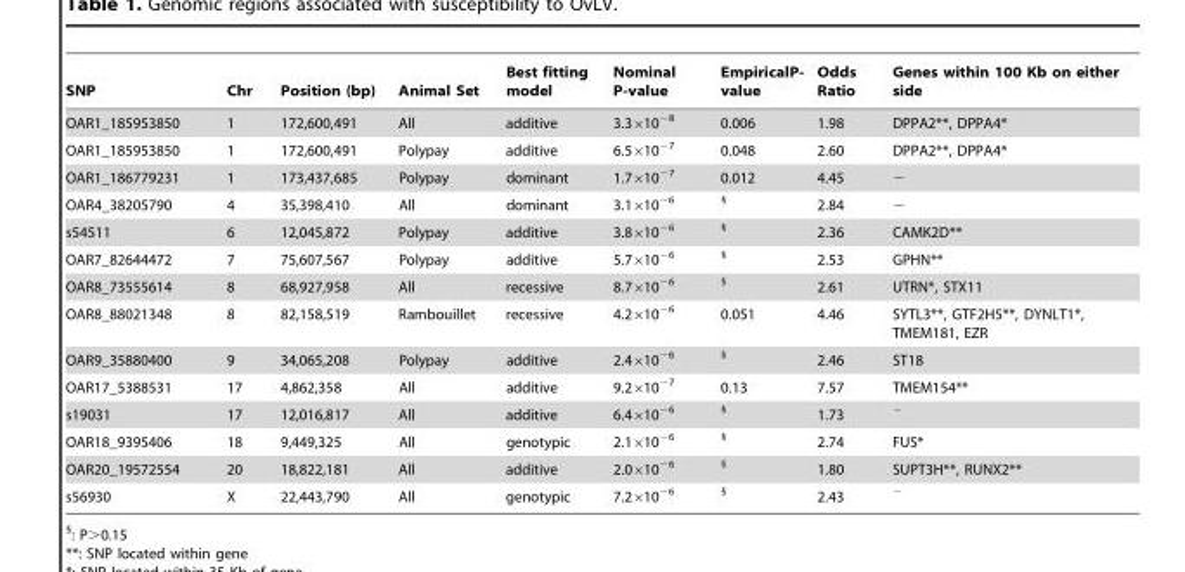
<table><thead><tr><td>SNP</td><td>Chr</td><td>Position (bp)</td><td>Animal Set</td><td>Best fitting model</td><td>Nominal P-value</td><td>EmpiricalP- value</td><td>Odds Ratio</td><td>Genes within 100 Kb on either side</td></tr></thead><tbody><tr><td>OAR1_185953850</td><td>1</td><td>172,600,491</td><td>All</td><td>additive</td><td>3.3×10<sup>−8</sup></td><td>0.006</td><td>1.98</td><td>DPPA2**, DPPA4*</td></tr><tr><td>OAR1_185953850</td><td>1</td><td>172,600,491</td><td>Polypay</td><td>additive</td><td>6.5×10<sup>−7</sup></td><td>0.048</td><td>2.60</td><td>DPPA2**, DPPA4*</td></tr><tr><td>OAR1_186779231</td><td>1</td><td>173,437,685</td><td>Polypay</td><td>dominant</td><td>1.7×10<sup>−7</sup></td><td>0.012</td><td>4.45</td><td>−</td></tr><tr><td>OAR4_38205790</td><td>4</td><td>35,398,410</td><td>All</td><td>dominant</td><td>3.1×10<sup>−6</sup></td><td>§</td><td>2.84</td><td>−</td></tr><tr><td>s54511</td><td>6</td><td>12,045,872</td><td>Polypay</td><td>additive</td><td>3.8×10<sup>−6</sup></td><td>§</td><td>2.36</td><td>CAMK2D**</td></tr><tr><td>OAR7_82644472</td><td>7</td><td>75,607,567</td><td>Polypay</td><td>additive</td><td>5.7×10<sup>−6</sup></td><td>§</td><td>2.53</td><td>GPHN**</td></tr><tr><td>OAR8_73555614</td><td>8</td><td>68,927,958</td><td>All</td><td>recessive</td><td>8.7×10<sup>−6</sup></td><td>§</td><td>2.61</td><td>UTRN*, STX11</td></tr><tr><td>OAR8_88021348</td><td>8</td><td>82,158,519</td><td>Rambouillet</td><td>recessive</td><td>4.2×10<sup>−6</sup></td><td>0.051</td><td>4.46</td><td>SYTL3**, GTF2H5**, DYNLT1*, TMEM181, EZR</td></tr><tr><td>OAR9_35880400</td><td>9</td><td>34,065,208</td><td>Polypay</td><td>additive</td><td>2.4×10<sup>−6</sup></td><td>§</td><td>2.46</td><td>ST18</td></tr><tr><td>OAR17_5388531</td><td>17</td><td>4,862,358</td><td>All</td><td>additive</td><td>9.2×10<sup>−7</sup></td><td>0.13</td><td>7.57</td><td>TMEM154**</td></tr><tr><td>s19031</td><td>17</td><td>12,016,817</td><td>All</td><td>additive</td><td>6.4×10<sup>−6</sup></td><td>§</td><td>1.73</td><td><sup>−</sup></td></tr><tr><td>OAR18_9395406</td><td>18</td><td>9,449,325</td><td>All</td><td>genotypic</td><td>2.1×10<sup>−6</sup></td><td>§</td><td>2.74</td><td>FUS*</td></tr><tr><td>OAR20_19572554</td><td>20</td><td>18,822,181</td><td>All</td><td>additive</td><td>2.0×10<sup>−6</sup></td><td>§</td><td>1.80</td><td>SUPT3H**, RUNX2**</td></tr><tr><td>s56930</td><td>X</td><td>22,443,790</td><td>All</td><td>genotypic</td><td>7.2×10<sup>−6</sup></td><td>§</td><td>2.43</td><td><sup>−</sup></td></tr></tbody></table>